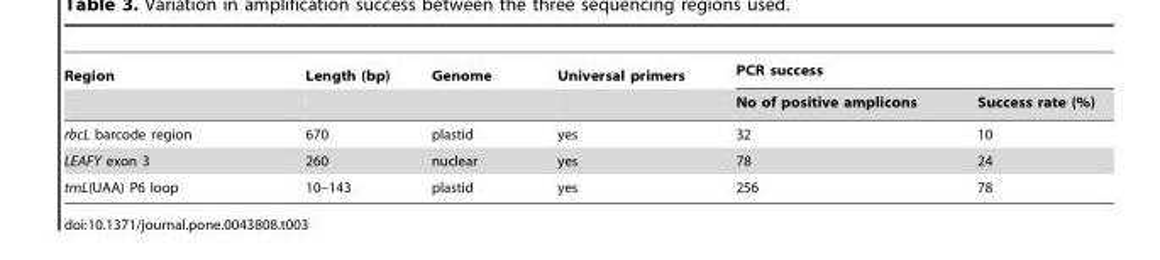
<table><thead><tr><td rowspan="2">Region</td><td rowspan="2">Length (bp)</td><td rowspan="2">Genome</td><td rowspan="2">Universal primers</td><td colspan="2">PCR success</td></tr><tr><td>No of positive amplicons</td><td>Success rate (%)</td></tr></thead><tbody><tr><td>rbcL barcode region</td><td>670</td><td>plastid</td><td>yes</td><td>32</td><td>10</td></tr><tr><td>LEAFY exon 3</td><td>260</td><td>nuclear</td><td>yes</td><td>78</td><td>24</td></tr><tr><td>trnL(UAA) P6 loop</td><td>10–143</td><td>plastid</td><td>yes</td><td>256</td><td>78</td></tr></tbody></table>